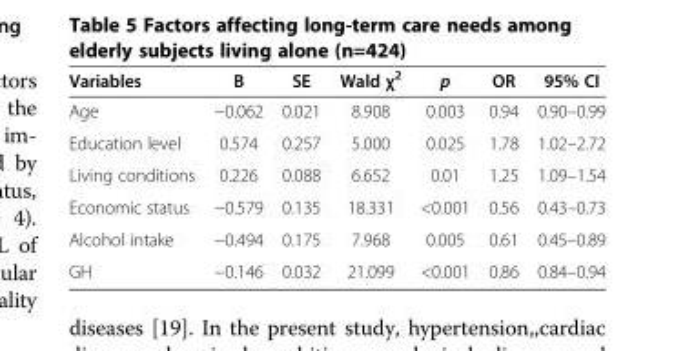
<table><thead><tr><td>Variables</td><td>B</td><td>SE</td><td>Wald χ<sup>2</sup></td><td>p</td><td>OR</td><td>95% CI</td></tr></thead><tbody><tr><td>Age</td><td>−0.062</td><td>0.021</td><td>8.908</td><td>0.003</td><td>0.94</td><td>0.90–0.99</td></tr><tr><td>Education level</td><td>0.574</td><td>0.257</td><td>5.000</td><td>0.025</td><td>1.78</td><td>1.02–2.72</td></tr><tr><td>Living conditions</td><td>0.226</td><td>0.088</td><td>6.652</td><td>0.01</td><td>1.25</td><td>1.09–1.54</td></tr><tr><td>Economic status</td><td>−0.579</td><td>0.135</td><td>18.331</td><td>&lt;0.001</td><td>0.56</td><td>0.43–0.73</td></tr><tr><td>Alcohol intake</td><td>−0.494</td><td>0.175</td><td>7.968</td><td>0.005</td><td>0.61</td><td>0.45–0.89</td></tr><tr><td>GH</td><td>−0.146</td><td>0.032</td><td>21.099</td><td>&lt;0.001</td><td>0.86</td><td>0.84–0.94</td></tr></tbody></table>